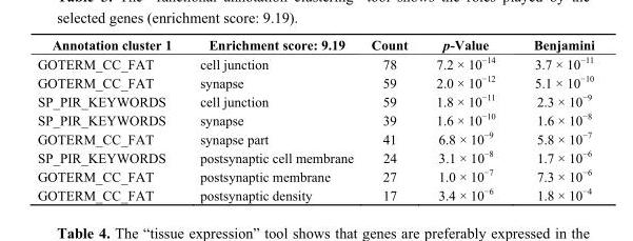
<table><thead><tr><td>Annotation cluster 1</td><td>Enrichment score: 9.19</td><td>Count</td><td>p-Value</td><td>Benjamini</td></tr></thead><tbody><tr><td>GOTERM_CC_FAT</td><td>cell junction</td><td>78</td><td>7.2 × 10<sup>−14</sup></td><td>3.7 × 10<sup>−11</sup></td></tr><tr><td>GOTERM_CC_FAT</td><td>synapse</td><td>59</td><td>2.0 × 10<sup>−12</sup></td><td>5.1 × 10<sup>−10</sup></td></tr><tr><td>SP_PIR_KEYWORDS</td><td>cell junction</td><td>59</td><td>1.8 × 10<sup>−11</sup></td><td>2.3 × 10<sup>−9</sup></td></tr><tr><td>SP_PIR_KEYWORDS</td><td>synapse</td><td>39</td><td>1.6 × 10<sup>−10</sup></td><td>1.6 × 10<sup>−8</sup></td></tr><tr><td>GOTERM_CC_FAT</td><td>synapse part</td><td>41</td><td>6.8 × 10<sup>−9</sup></td><td>5.8 × 10<sup>−7</sup></td></tr><tr><td>SP_PIR_KEYWORDS</td><td>postsynaptic cell membrane</td><td>24</td><td>3.1 × 10<sup>−8</sup></td><td>1.7 × 10<sup>−6</sup></td></tr><tr><td>GOTERM_CC_FAT</td><td>postsynaptic membrane</td><td>27</td><td>1.0 × 10<sup>−7</sup></td><td>7.3 × 10<sup>−6</sup></td></tr><tr><td>GOTERM_CC_FAT</td><td>postsynaptic density</td><td>17</td><td>3.4 × 10<sup>−6</sup></td><td>1.8 × 10<sup>−4</sup></td></tr></tbody></table>